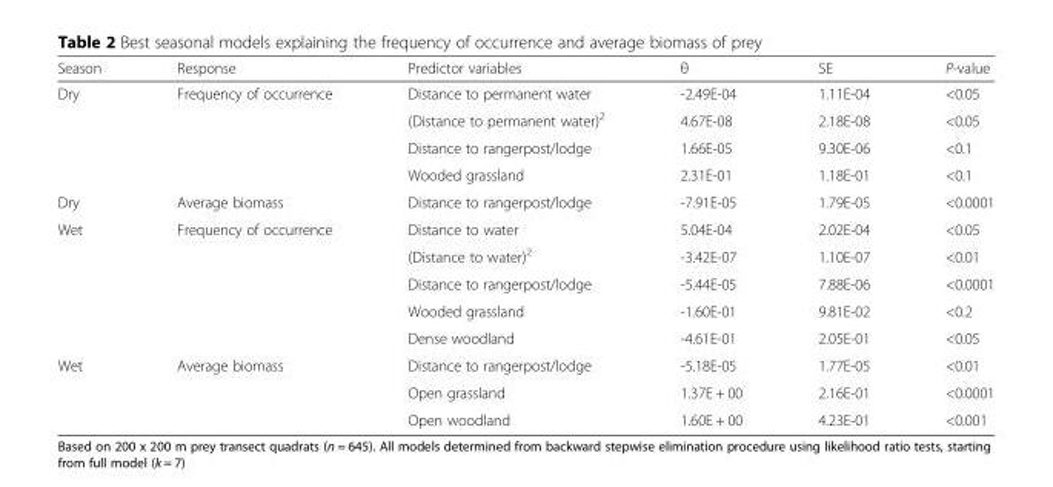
<table><thead><tr><td>Season</td><td>Response</td><td>Predictor variables</td><td>θ</td><td>SE</td><td>P-value</td></tr></thead><tbody><tr><td rowspan="4">Dry</td><td>Frequency of occurrence</td><td>Distance to permanent water</td><td>-2.49E-04</td><td>1.11E-04</td><td>&lt;0.05</td></tr><tr><td></td><td>(Distance to permanent water)<sup>2</sup></td><td>4.67E-08</td><td>2.18E-08</td><td>&lt;0.05</td></tr><tr><td></td><td>Distance to rangerpost/lodge</td><td>1.66E-05</td><td>9.30E-06</td><td>&lt;0.1</td></tr><tr><td></td><td>Wooded grassland</td><td>2.31E-01</td><td>1.18E-01</td><td>&lt;0.1</td></tr><tr><td>Dry</td><td>Average biomass</td><td>Distance to rangerpost/lodge</td><td>-7.91E-05</td><td>1.79E-05</td><td>&lt;0.0001</td></tr><tr><td rowspan="5">Wet</td><td>Frequency of occurrence</td><td>Distance to water</td><td>5.04E-04</td><td>2.02E-04</td><td>&lt;0.05</td></tr><tr><td></td><td>(Distance to water)<sup>2</sup></td><td>-3.42E-07</td><td>1.10E-07</td><td>&lt;0.01</td></tr><tr><td></td><td>Distance to rangerpost/lodge</td><td>-5.44E-05</td><td>7.88E-06</td><td>&lt;0.0001</td></tr><tr><td></td><td>Wooded grassland</td><td>-1.60E-01</td><td>9.81E-02</td><td>&lt;0.2</td></tr><tr><td></td><td>Dense woodland</td><td>-4.61E-01</td><td>2.05E-01</td><td>&lt;0.05</td></tr><tr><td rowspan="3">Wet</td><td>Average biomass</td><td>Distance to rangerpost/lodge</td><td>-5.18E-05</td><td>1.77E-05</td><td>&lt;0.01</td></tr><tr><td></td><td>Open grassland</td><td>1.37E + 00</td><td>2.16E-01</td><td>&lt;0.0001</td></tr><tr><td></td><td>Open woodland</td><td>1.60E + 00</td><td>4.23E-01</td><td>&lt;0.001</td></tr></tbody></table>